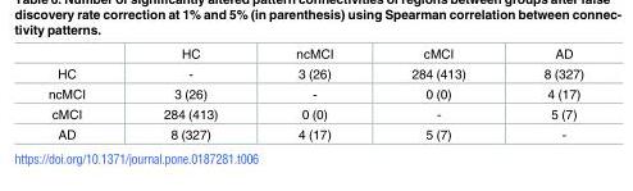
<table><thead><tr><td></td><td>HC</td><td>ncMCI</td><td>cMCI</td><td>AD</td></tr></thead><tbody><tr><td>HC</td><td>-</td><td>3 (26)</td><td>284 (413)</td><td>8 (327)</td></tr><tr><td>ncMCI</td><td>3 (26)</td><td>-</td><td>0 (0)</td><td>4 (17)</td></tr><tr><td>cMCI</td><td>284 (413)</td><td>0 (0)</td><td>-</td><td>5 (7)</td></tr><tr><td>AD</td><td>8 (327)</td><td>4 (17)</td><td>5 (7)</td><td>-</td></tr></tbody></table>